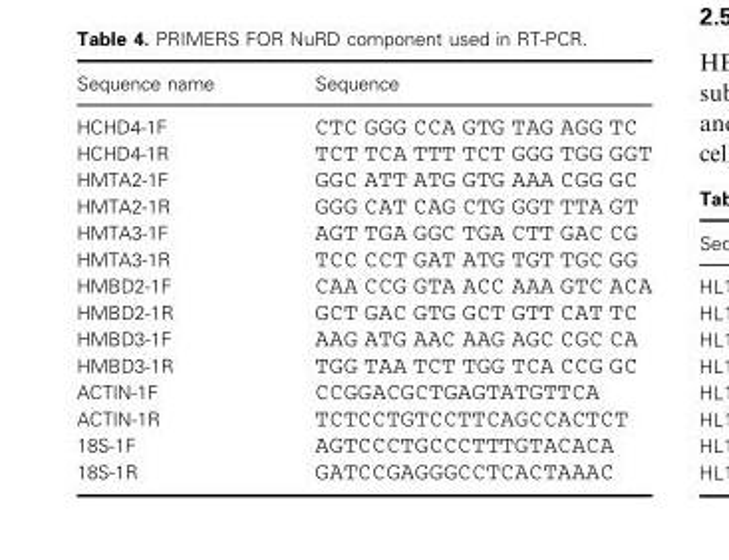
<table><thead><tr><td>Sequence name</td><td>Sequence</td></tr></thead><tbody><tr><td>HCHD4-1F</td><td>CTC GGG CCA GTG TAG AGG TC</td></tr><tr><td>HCHD4-1R</td><td>TCT TCA TTT TCT GGG TGG GGT</td></tr><tr><td>HMTA2-1F</td><td>GGC ATT ATG GTG AAA CGG GC</td></tr><tr><td>HMTA2-1R</td><td>GGG CAT CAG CTG GGT TTA GT</td></tr><tr><td>HMTA3-1F</td><td>AGT TGA GGC TGA CTT GAC CG</td></tr><tr><td>HMTA3-1R</td><td>TCC CCT GAT ATG TGT TGC GG</td></tr><tr><td>HMBD2-1F</td><td>CAA CCG GTA ACC AAA GTC ACA</td></tr><tr><td>HMBD2-1R</td><td>GCT GAC GTG GCT GTT CAT TC</td></tr><tr><td>HMBD3-1F</td><td>AAG ATG AAC AAG AGC CGC CA</td></tr><tr><td>HMBD3-1R</td><td>TGG TAA TCT TGG TCA CCG GC</td></tr><tr><td>ACTIN-1F</td><td>CCGGACGCTGAGTATGTTCA</td></tr><tr><td>ACTIN-1R</td><td>TCTCCTGTCCTTCAGCCACTCT</td></tr><tr><td>18S-1F</td><td>AGTCCCTGCCCTTTGTACACA</td></tr><tr><td>18S-1R</td><td>GATCCGAGGGCCTCACTAAAC</td></tr></tbody></table>